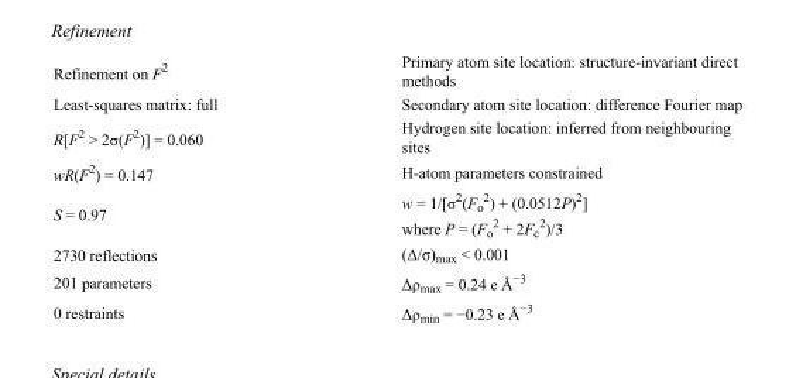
<table><tbody><tr><td>Refinement on F<sup>2</sup></td><td>Primary atom site location: structure-invariant direct methods</td></tr><tr><td>Least-squares matrix: full</td><td>Secondary atom site location: difference Fourier map</td></tr><tr><td>R[F<sup>2</sup> &gt; 2σ(F<sup>2</sup>)] = 0.060</td><td>Hydrogen site location: inferred from neighbouring sites</td></tr><tr><td>wR(F<sup>2</sup>) = 0.147</td><td>H-atom parameters constrained</td></tr><tr><td>S = 0.97</td><td>w = 1/[σ<sup>2</sup>(F<sub>o</sub> <sup>2</sup>) + (0.0512P)<sup>2</sup>] where P = (F<sub>o</sub> <sup>2</sup> + 2F<sub>c</sub> <sup>2</sup>)/3</td></tr><tr><td>2730 reflections</td><td>(Δ/σ)<sub>max</sub> &lt; 0.001</td></tr><tr><td>201 parameters</td><td>Δρ<sub>max</sub> = 0.24 e Å<sup>−3</sup></td></tr><tr><td>0 restraints</td><td>Δρ<sub>min</sub> = −0.23 e Å<sup>−3</sup></td></tr></tbody></table>